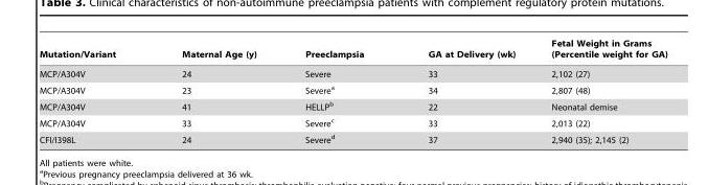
<table><thead><tr><td>Mutation/Variant</td><td>Maternal Age (y)</td><td>Preeclampsia</td><td>GA at Delivery (wk)</td><td>Fetal Weight in Grams (Percentile weight for GA)</td></tr></thead><tbody><tr><td>MCP/A304V</td><td>24</td><td>Severe</td><td>33</td><td>2,102 (27)</td></tr><tr><td>MCP/A304V</td><td>23</td><td>Severe<sup>a</sup></td><td>34</td><td>2,807 (48)</td></tr><tr><td>MCP/A304V</td><td>41</td><td>HELLP<sup>b</sup></td><td>22</td><td>Neonatal demise</td></tr><tr><td>MCP/A304V</td><td>33</td><td>Severe<sup>c</sup></td><td>33</td><td>2,013 (22)</td></tr><tr><td>CFI/I398L</td><td>24</td><td>Severe<sup>d</sup></td><td>37</td><td>2,940 (35); 2,145 (2)</td></tr></tbody></table>